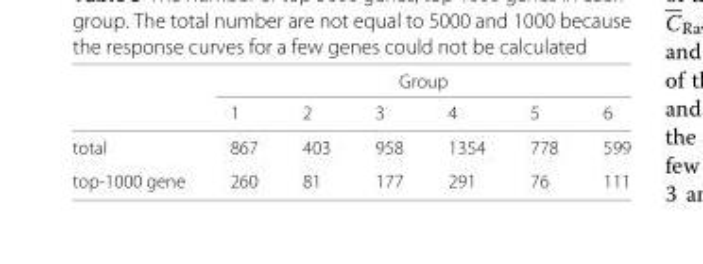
<table><thead><tr><td rowspan="2"></td><td colspan="4">Group</td><td rowspan="2">5</td><td rowspan="2">6</td></tr><tr><td>1</td><td>2</td><td>3</td><td>4</td></tr></thead><tbody><tr><td>total</td><td>867</td><td>403</td><td>958</td><td>1354</td><td>778</td><td>599</td></tr><tr><td>top-1000 gene</td><td>260</td><td>81</td><td>177</td><td>291</td><td>76</td><td>111</td></tr></tbody></table>